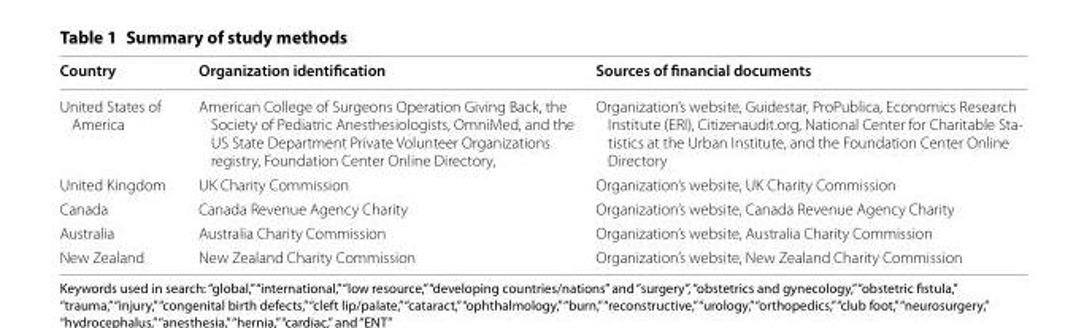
<table><thead><tr><td>Country</td><td>Organization identification</td><td>Sources of financial documents</td></tr></thead><tbody><tr><td>United States of America</td><td>American College of Surgeons Operation Giving Back, the Society of Pediatric Anesthesiologists, OmniMed, and the US State Department Private Volunteer Organizations registry, Foundation Center Online Directory,</td><td>Organization’s website, Guidestar, ProPublica, Economics Research Institute (ERI), Citizenaudit.org, National Center for Charitable Sta- tistics at the Urban Institute, and the Foundation Center Online Directory</td></tr><tr><td>United Kingdom</td><td>UK Charity Commission</td><td>Organization’s website, UK Charity Commission</td></tr><tr><td>Canada</td><td>Canada Revenue Agency Charity</td><td>Organization’s website, Canada Revenue Agency Charity</td></tr><tr><td>Australia</td><td>Australia Charity Commission</td><td>Organization’s website, Australia Charity Commission</td></tr><tr><td>New Zealand</td><td>New Zealand Charity Commission</td><td>Organization’s website, New Zealand Charity Commission</td></tr></tbody></table>